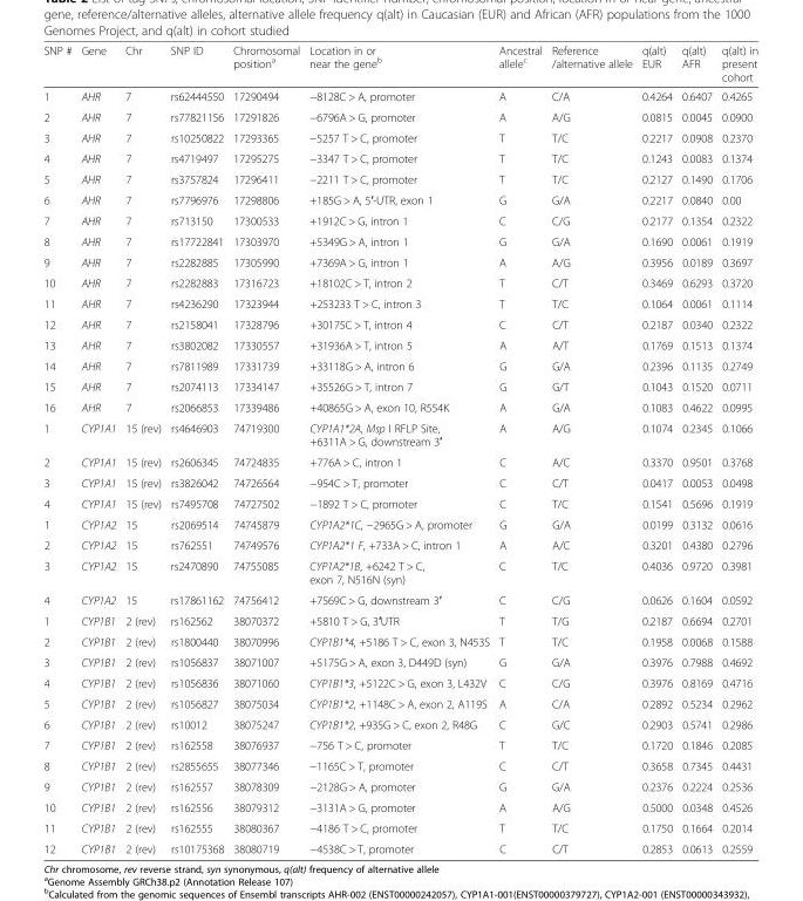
<table><thead><tr><td>SNP #</td><td>Gene</td><td>Chr</td><td>SNP ID</td><td>Chromosomal position<sup>a</sup></td><td>Location in or near the gene<sup>b</sup></td><td>Ancestral allele<sup>c</sup></td><td>Reference /alternative allele</td><td>q(alt) EUR</td><td>q(alt) AFR</td><td>q(alt) in present cohort</td></tr></thead><tbody><tr><td>1</td><td>AHR</td><td>7</td><td>rs62444550</td><td>17290494</td><td>−8128C &gt; A, promoter</td><td>A</td><td>C/A</td><td>0.4264</td><td>0.6407</td><td>0.4265</td></tr><tr><td>2</td><td>AHR</td><td>7</td><td>rs77821156</td><td>17291826</td><td>−6796A &gt; G, promoter</td><td>A</td><td>A/G</td><td>0.0815</td><td>0.0045</td><td>0.0900</td></tr><tr><td>3</td><td>AHR</td><td>7</td><td>rs10250822</td><td>17293365</td><td>−5257 T &gt; C, promoter</td><td>T</td><td>T/C</td><td>0.2217</td><td>0.0908</td><td>0.2370</td></tr><tr><td>4</td><td>AHR</td><td>7</td><td>rs4719497</td><td>17295275</td><td>−3347 T &gt; C, promoter</td><td>T</td><td>T/C</td><td>0.1243</td><td>0.0083</td><td>0.1374</td></tr><tr><td>5</td><td>AHR</td><td>7</td><td>rs3757824</td><td>17296411</td><td>−2211 T &gt; C, promoter</td><td>T</td><td>T/C</td><td>0.2127</td><td>0.1490</td><td>0.1706</td></tr><tr><td>6</td><td>AHR</td><td>7</td><td>rs7796976</td><td>17298806</td><td>+185G &gt; A, 5′-UTR, exon 1</td><td>G</td><td>G/A</td><td>0.2217</td><td>0.0840</td><td>0.00</td></tr><tr><td>7</td><td>AHR</td><td>7</td><td>rs713150</td><td>17300533</td><td>+1912C &gt; G, intron 1</td><td>C</td><td>C/G</td><td>0.2177</td><td>0.1354</td><td>0.2322</td></tr><tr><td>8</td><td>AHR</td><td>7</td><td>rs17722841</td><td>17303970</td><td>+5349G &gt; A, intron 1</td><td>G</td><td>G/A</td><td>0.1690</td><td>0.0061</td><td>0.1919</td></tr><tr><td>9</td><td>AHR</td><td>7</td><td>rs2282885</td><td>17305990</td><td>+7369A &gt; G, intron 1</td><td>A</td><td>A/G</td><td>0.3956</td><td>0.0189</td><td>0.3697</td></tr><tr><td>10</td><td>AHR</td><td>7</td><td>rs2282883</td><td>17316723</td><td>+18102C &gt; T, intron 2</td><td>T</td><td>C/T</td><td>0.3469</td><td>0.6293</td><td>0.3720</td></tr><tr><td>11</td><td>AHR</td><td>7</td><td>rs4236290</td><td>17323944</td><td>+253233 T &gt; C, intron 3</td><td>T</td><td>T/C</td><td>0.1064</td><td>0.0061</td><td>0.1114</td></tr><tr><td>12</td><td>AHR</td><td>7</td><td>rs2158041</td><td>17328796</td><td>+30175C &gt; T, intron 4</td><td>C</td><td>C/T</td><td>0.2187</td><td>0.0340</td><td>0.2322</td></tr><tr><td>13</td><td>AHR</td><td>7</td><td>rs3802082</td><td>17330557</td><td>+31936A &gt; T, intron 5</td><td>A</td><td>A/T</td><td>0.1769</td><td>0.1513</td><td>0.1374</td></tr><tr><td>14</td><td>AHR</td><td>7</td><td>rs7811989</td><td>17331739</td><td>+33118G &gt; A, intron 6</td><td>G</td><td>G/A</td><td>0.2396</td><td>0.1135</td><td>0.2749</td></tr><tr><td>15</td><td>AHR</td><td>7</td><td>rs2074113</td><td>17334147</td><td>+35526G &gt; T, intron 7</td><td>G</td><td>G/T</td><td>0.1043</td><td>0.1520</td><td>0.0711</td></tr><tr><td>16</td><td>AHR</td><td>7</td><td>rs2066853</td><td>17339486</td><td>+40865G &gt; A, exon 10, R554K</td><td>A</td><td>G/A</td><td>0.1083</td><td>0.4622</td><td>0.0995</td></tr><tr><td>1</td><td>CYP1A1</td><td>15 (rev)</td><td>rs4646903</td><td>74719300</td><td>CYP1A1*2A, Msp I RFLP Site, +6311A &gt; G, downstream 3′</td><td>A</td><td>A/G</td><td>0.1074</td><td>0.2345</td><td>0.1066</td></tr><tr><td>2</td><td>CYP1A1</td><td>15 (rev)</td><td>rs2606345</td><td>74724835</td><td>+776A &gt; C, intron 1</td><td>C</td><td>A/C</td><td>0.3370</td><td>0.9501</td><td>0.3768</td></tr><tr><td>3</td><td>CYP1A1</td><td>15 (rev)</td><td>rs3826042</td><td>74726564</td><td>−954C &gt; T, promoter</td><td>C</td><td>C/T</td><td>0.0417</td><td>0.0053</td><td>0.0498</td></tr><tr><td>4</td><td>CYP1A1</td><td>15 (rev)</td><td>rs7495708</td><td>74727502</td><td>−1892 T &gt; C, promoter</td><td>C</td><td>T/C</td><td>0.1541</td><td>0.5696</td><td>0.1919</td></tr><tr><td>1</td><td>CYP1A2</td><td>15</td><td>rs2069514</td><td>74745879</td><td>CYP1A2*1C, −2965G &gt; A, promoter</td><td>G</td><td>G/A</td><td>0.0199</td><td>0.3132</td><td>0.0616</td></tr><tr><td>2</td><td>CYP1A2</td><td>15</td><td>rs762551</td><td>74749576</td><td>CYP1A2*1 F, +733A &gt; C, intron 1</td><td>A</td><td>A/C</td><td>0.3201</td><td>0.4380</td><td>0.2796</td></tr><tr><td>3</td><td>CYP1A2</td><td>15</td><td>rs2470890</td><td>74755085</td><td>CYP1A2*1B, +6242 T &gt; C, exon 7, N516N (syn)</td><td>C</td><td>T/C</td><td>0.4036</td><td>0.9720</td><td>0.3981</td></tr><tr><td>4</td><td>CYP1A2</td><td>15</td><td>rs17861162</td><td>74756412</td><td>+7569C &gt; G, downstream 3′</td><td>C</td><td>C/G</td><td>0.0626</td><td>0.1604</td><td>0.0592</td></tr><tr><td>1</td><td>CYP1B1</td><td>2 (rev)</td><td>rs162562</td><td>38070372</td><td>+5810 T &gt; G, 3′UTR</td><td>T</td><td>T/G</td><td>0.2187</td><td>0.6694</td><td>0.2701</td></tr><tr><td>2</td><td>CYP1B1</td><td>2 (rev)</td><td>rs1800440</td><td>38070996</td><td>CYP1B1*4, +5186 T &gt; C, exon 3, N453S</td><td>T</td><td>T/C</td><td>0.1958</td><td>0.0068</td><td>0.1588</td></tr><tr><td>3</td><td>CYP1B1</td><td>2 (rev)</td><td>rs1056837</td><td>38071007</td><td>+5175G &gt; A, exon 3, D449D (syn)</td><td>G</td><td>G/A</td><td>0.3976</td><td>0.7988</td><td>0.4692</td></tr><tr><td>4</td><td>CYP1B1</td><td>2 (rev)</td><td>rs1056836</td><td>38071060</td><td>CYP1B1*3, +5122C &gt; G, exon 3, L432V</td><td>C</td><td>C/G</td><td>0.3976</td><td>0.8169</td><td>0.4716</td></tr><tr><td>5</td><td>CYP1B1</td><td>2 (rev)</td><td>rs1056827</td><td>38075034</td><td>CYP1B1*2, +1148C &gt; A, exon 2, A119S</td><td>A</td><td>C/A</td><td>0.2892</td><td>0.5234</td><td>0.2962</td></tr><tr><td>6</td><td>CYP1B1</td><td>2 (rev)</td><td>rs10012</td><td>38075247</td><td>CYP1B1*2, +935G &gt; C, exon 2, R48G</td><td>C</td><td>G/C</td><td>0.2903</td><td>0.5741</td><td>0.2986</td></tr><tr><td>7</td><td>CYP1B1</td><td>2 (rev)</td><td>rs162558</td><td>38076937</td><td>−756 T &gt; C, promoter</td><td>T</td><td>T/C</td><td>0.1720</td><td>0.1846</td><td>0.2085</td></tr><tr><td>8</td><td>CYP1B1</td><td>2 (rev)</td><td>rs2855655</td><td>38077346</td><td>−1165C &gt; T, promoter</td><td>C</td><td>C/T</td><td>0.3658</td><td>0.7345</td><td>0.4431</td></tr><tr><td>9</td><td>CYP1B1</td><td>2 (rev)</td><td>rs162557</td><td>38078309</td><td>−2128G &gt; A, promoter</td><td>G</td><td>G/A</td><td>0.2376</td><td>0.2224</td><td>0.2536</td></tr><tr><td>10</td><td>CYP1B1</td><td>2 (rev)</td><td>rs162556</td><td>38079312</td><td>−3131A &gt; G, promoter</td><td>A</td><td>A/G</td><td>0.5000</td><td>0.0348</td><td>0.4526</td></tr><tr><td>11</td><td>CYP1B1</td><td>2 (rev)</td><td>rs162555</td><td>38080367</td><td>−4186 T &gt; C, promoter</td><td>T</td><td>T/C</td><td>0.1750</td><td>0.1664</td><td>0.2014</td></tr><tr><td>12</td><td>CYP1B1</td><td>2 (rev)</td><td>rs10175368</td><td>38080719</td><td>−4538C &gt; T, promoter</td><td>C</td><td>C/T</td><td>0.2853</td><td>0.0613</td><td>0.2559</td></tr></tbody></table>